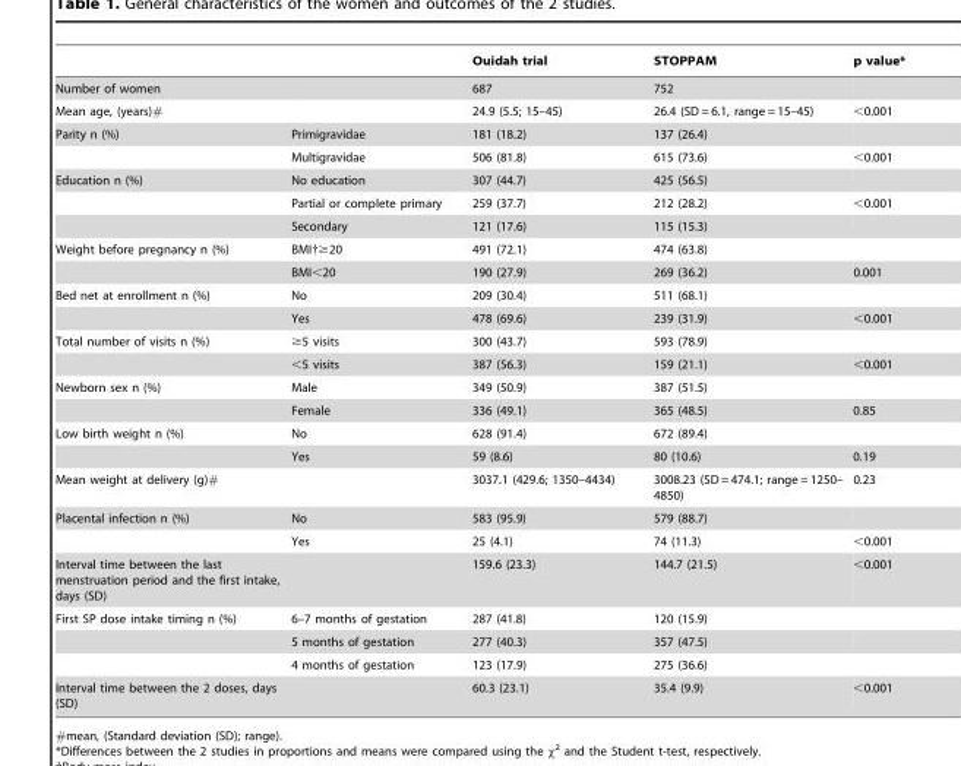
<table><thead><tr><td></td><td></td><td>Ouidah trial</td><td>STOPPAM</td><td>p value*</td></tr></thead><tbody><tr><td>Number of women</td><td></td><td>687</td><td>752</td><td></td></tr><tr><td>Mean age, (years)#</td><td></td><td>24.9 (5.5; 15–45)</td><td>26.4 (SD = 6.1, range = 15–45)</td><td>&lt;0.001</td></tr><tr><td rowspan="2">Parity n (%)</td><td>Primigravidae</td><td>181 (18.2)</td><td>137 (26.4)</td><td></td></tr><tr><td>Multigravidae</td><td>506 (81.8)</td><td>615 (73.6)</td><td>&lt;0.001</td></tr><tr><td rowspan="3">Education n (%)</td><td>No education</td><td>307 (44.7)</td><td>425 (56.5)</td><td></td></tr><tr><td>Partial or complete primary</td><td>259 (37.7)</td><td>212 (28.2)</td><td>&lt;0.001</td></tr><tr><td>Secondary</td><td>121 (17.6)</td><td>115 (15.3)</td><td></td></tr><tr><td rowspan="2">Weight before pregnancy n (%)</td><td>BMI†≥20</td><td>491 (72.1)</td><td>474 (63.8)</td><td></td></tr><tr><td>BMI&lt;20</td><td>190 (27.9)</td><td>269 (36.2)</td><td>0.001</td></tr><tr><td rowspan="2">Bed net at enrollment n (%)</td><td>No</td><td>209 (30.4)</td><td>511 (68.1)</td><td></td></tr><tr><td>Yes</td><td>478 (69.6)</td><td>239 (31.9)</td><td>&lt;0.001</td></tr><tr><td rowspan="2">Total number of visits n (%)</td><td>≥5 visits</td><td>300 (43.7)</td><td>593 (78.9)</td><td></td></tr><tr><td>&lt;5 visits</td><td>387 (56.3)</td><td>159 (21.1)</td><td>&lt;0.001</td></tr><tr><td rowspan="2">Newborn sex n (%)</td><td>Male</td><td>349 (50.9)</td><td>387 (51.5)</td><td></td></tr><tr><td>Female</td><td>336 (49.1)</td><td>365 (48.5)</td><td>0.85</td></tr><tr><td rowspan="2">Low birth weight n (%)</td><td>No</td><td>628 (91.4)</td><td>672 (89.4)</td><td></td></tr><tr><td>Yes</td><td>59 (8.6)</td><td>80 (10.6)</td><td>0.19</td></tr><tr><td>Mean weight at delivery (g)#</td><td></td><td>3037.1 (429.6; 1350–4434)</td><td>3008.23 (SD = 474.1; range = 1250– 4850)</td><td>0.23</td></tr><tr><td rowspan="2">Placental infection n (%)</td><td>No</td><td>583 (95.9)</td><td>579 (88.7)</td><td></td></tr><tr><td>Yes</td><td>25 (4.1)</td><td>74 (11.3)</td><td>&lt;0.001</td></tr><tr><td>Interval time between the last menstruation period and the first intake, days (SD)</td><td></td><td>159.6 (23.3)</td><td>144.7 (21.5)</td><td>&lt;0.001</td></tr><tr><td rowspan="3">First SP dose intake timing n (%)</td><td>6–7 months of gestation</td><td>287 (41.8)</td><td>120 (15.9)</td><td></td></tr><tr><td>5 months of gestation</td><td>277 (40.3)</td><td>357 (47.5)</td><td></td></tr><tr><td>4 months of gestation</td><td>123 (17.9)</td><td>275 (36.6)</td><td></td></tr><tr><td>Interval time between the 2 doses, days (SD)</td><td></td><td>60.3 (23.1)</td><td>35.4 (9.9)</td><td>&lt;0.001</td></tr></tbody></table>